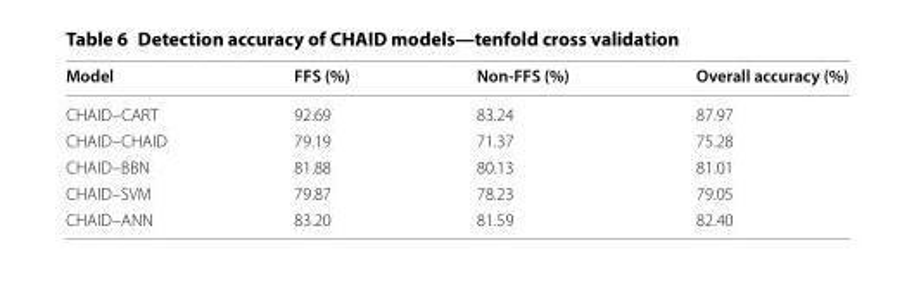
<table><thead><tr><td>Model</td><td>FFS (%)</td><td>Non‑FFS (%)</td><td>Overall accuracy (%)</td></tr></thead><tbody><tr><td>CHAID–CART</td><td>92.69</td><td>83.24</td><td>87.97</td></tr><tr><td>CHAID–CHAID</td><td>79.19</td><td>71.37</td><td>75.28</td></tr><tr><td>CHAID–BBN</td><td>81.88</td><td>80.13</td><td>81.01</td></tr><tr><td>CHAID–SVM</td><td>79.87</td><td>78.23</td><td>79.05</td></tr><tr><td>CHAID–ANN</td><td>83.20</td><td>81.59</td><td>82.40</td></tr></tbody></table>